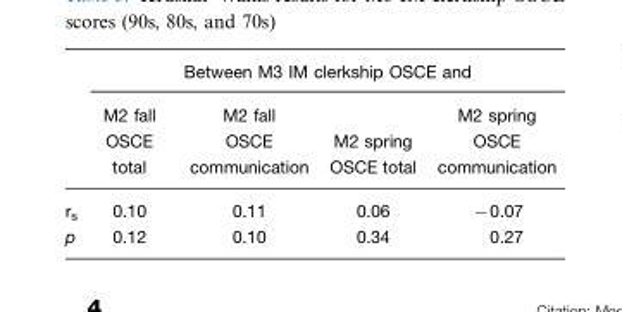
<table><thead><tr><td rowspan="2"></td><td colspan="4">Between M3 IM clerkship OSCE and</td></tr><tr><td>M2 fall OSCE total</td><td>M2 fall OSCE communication</td><td>M2 spring OSCE total</td><td>M2 spring OSCE communication</td></tr></thead><tbody><tr><td>r<sub>s</sub></td><td>0.10</td><td>0.11</td><td>0.06</td><td>−0.07</td></tr><tr><td>p</td><td>0.12</td><td>0.10</td><td>0.34</td><td>0.27</td></tr></tbody></table>